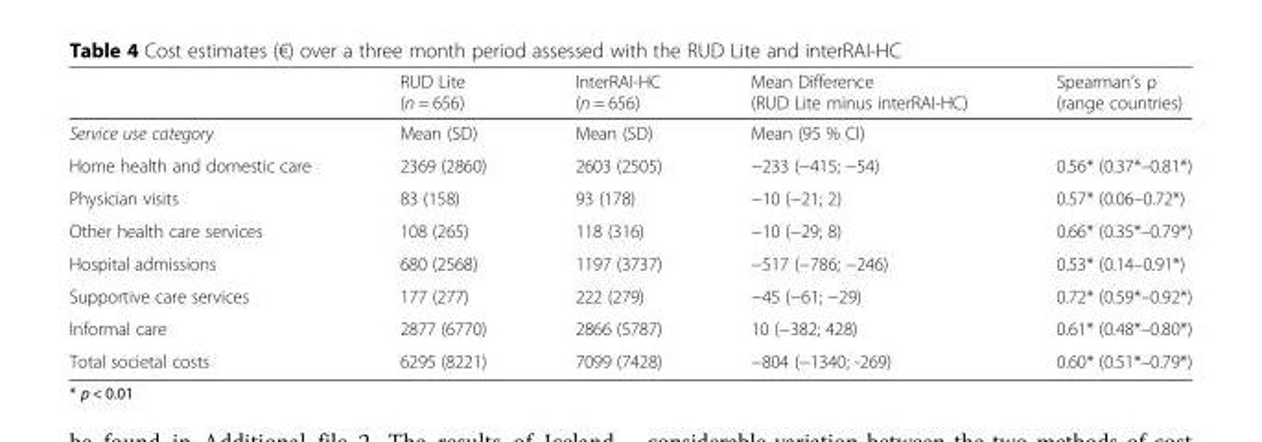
<table><thead><tr><td></td><td>RUD Lite (n = 656)</td><td>InterRAI-HC (n = 656)</td><td>Mean Difference (RUD Lite minus interRAI-HC)</td><td>Spearman’s ρ (range countries)</td></tr></thead><tbody><tr><td>Service use category</td><td>Mean (SD)</td><td>Mean (SD)</td><td>Mean (95 % CI)</td><td></td></tr><tr><td>Home health and domestic care</td><td>2369 (2860)</td><td>2603 (2505)</td><td>−233 (−415; −54)</td><td>0.56* (0.37*–0.81*)</td></tr><tr><td>Physician visits</td><td>83 (158)</td><td>93 (178)</td><td>−10 (−21; 2)</td><td>0.57* (0.06–0.72*)</td></tr><tr><td>Other health care services</td><td>108 (265)</td><td>118 (316)</td><td>−10 (−29; 8)</td><td>0.66* (0.35*–0.79*)</td></tr><tr><td>Hospital admissions</td><td>680 (2568)</td><td>1197 (3737)</td><td>−517 (−786; −246)</td><td>0.53* (0.14–0.91*)</td></tr><tr><td>Supportive care services</td><td>177 (277)</td><td>222 (279)</td><td>−45 (−61; −29)</td><td>0.72* (0.59*–0.92*)</td></tr><tr><td>Informal care</td><td>2877 (6770)</td><td>2866 (5787)</td><td>10 (−382; 428)</td><td>0.61* (0.48*–0.80*)</td></tr><tr><td>Total societal costs</td><td>6295 (8221)</td><td>7099 (7428)</td><td>−804 (−1340; -269)</td><td>0.60* (0.51*–0.79*)</td></tr></tbody></table>